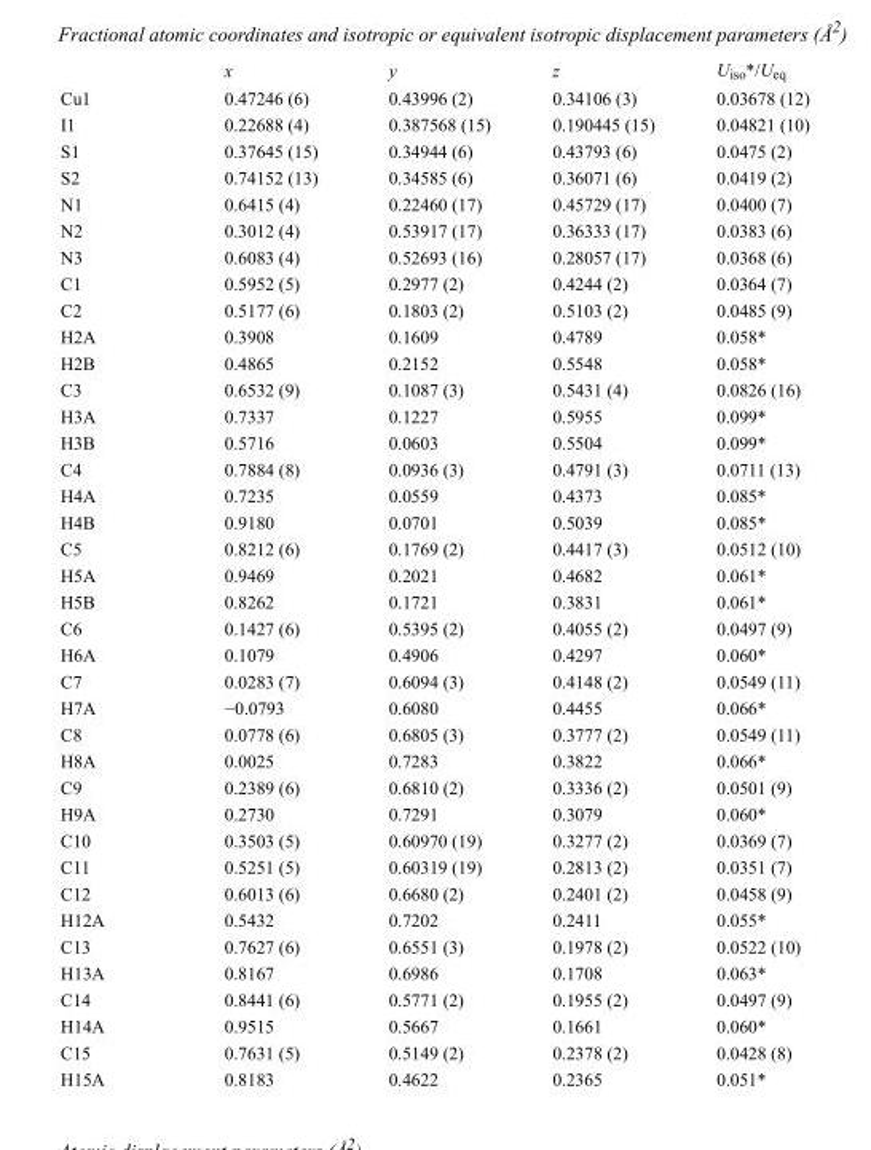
<table><thead><tr><td></td><td>x</td><td>y</td><td>z</td><td>U<sub>iso</sub>*/U<sub>eq</sub></td></tr></thead><tbody><tr><td>Cu1</td><td>0.47246 (6)</td><td>0.43996 (2)</td><td>0.34106 (3)</td><td>0.03678 (12)</td></tr><tr><td>I1</td><td>0.22688 (4)</td><td>0.387568 (15)</td><td>0.190445 (15)</td><td>0.04821 (10)</td></tr><tr><td>S1</td><td>0.37645 (15)</td><td>0.34944 (6)</td><td>0.43793 (6)</td><td>0.0475 (2)</td></tr><tr><td>S2</td><td>0.74152 (13)</td><td>0.34585 (6)</td><td>0.36071 (6)</td><td>0.0419 (2)</td></tr><tr><td>N1</td><td>0.6415 (4)</td><td>0.22460 (17)</td><td>0.45729 (17)</td><td>0.0400 (7)</td></tr><tr><td>N2</td><td>0.3012 (4)</td><td>0.53917 (17)</td><td>0.36333 (17)</td><td>0.0383 (6)</td></tr><tr><td>N3</td><td>0.6083 (4)</td><td>0.52693 (16)</td><td>0.28057 (17)</td><td>0.0368 (6)</td></tr><tr><td>C1</td><td>0.5952 (5)</td><td>0.2977 (2)</td><td>0.4244 (2)</td><td>0.0364 (7)</td></tr><tr><td>C2</td><td>0.5177 (6)</td><td>0.1803 (2)</td><td>0.5103 (2)</td><td>0.0485 (9)</td></tr><tr><td>H2A</td><td>0.3908</td><td>0.1609</td><td>0.4789</td><td>0.058*</td></tr><tr><td>H2B</td><td>0.4865</td><td>0.2152</td><td>0.5548</td><td>0.058*</td></tr><tr><td>C3</td><td>0.6532 (9)</td><td>0.1087 (3)</td><td>0.5431 (4)</td><td>0.0826 (16)</td></tr><tr><td>H3A</td><td>0.7337</td><td>0.1227</td><td>0.5955</td><td>0.099*</td></tr><tr><td>H3B</td><td>0.5716</td><td>0.0603</td><td>0.5504</td><td>0.099*</td></tr><tr><td>C4</td><td>0.7884 (8)</td><td>0.0936 (3)</td><td>0.4791 (3)</td><td>0.0711 (13)</td></tr><tr><td>H4A</td><td>0.7235</td><td>0.0559</td><td>0.4373</td><td>0.085*</td></tr><tr><td>H4B</td><td>0.9180</td><td>0.0701</td><td>0.5039</td><td>0.085*</td></tr><tr><td>C5</td><td>0.8212 (6)</td><td>0.1769 (2)</td><td>0.4417 (3)</td><td>0.0512 (10)</td></tr><tr><td>H5A</td><td>0.9469</td><td>0.2021</td><td>0.4682</td><td>0.061*</td></tr><tr><td>H5B</td><td>0.8262</td><td>0.1721</td><td>0.3831</td><td>0.061*</td></tr><tr><td>C6</td><td>0.1427 (6)</td><td>0.5395 (2)</td><td>0.4055 (2)</td><td>0.0497 (9)</td></tr><tr><td>H6A</td><td>0.1079</td><td>0.4906</td><td>0.4297</td><td>0.060*</td></tr><tr><td>C7</td><td>0.0283 (7)</td><td>0.6094 (3)</td><td>0.4148 (2)</td><td>0.0549 (11)</td></tr><tr><td>H7A</td><td>−0.0793</td><td>0.6080</td><td>0.4455</td><td>0.066*</td></tr><tr><td>C8</td><td>0.0778 (6)</td><td>0.6805 (3)</td><td>0.3777 (2)</td><td>0.0549 (11)</td></tr><tr><td>H8A</td><td>0.0025</td><td>0.7283</td><td>0.3822</td><td>0.066*</td></tr><tr><td>C9</td><td>0.2389 (6)</td><td>0.6810 (2)</td><td>0.3336 (2)</td><td>0.0501 (9)</td></tr><tr><td>H9A</td><td>0.2730</td><td>0.7291</td><td>0.3079</td><td>0.060*</td></tr><tr><td>C10</td><td>0.3503 (5)</td><td>0.60970 (19)</td><td>0.3277 (2)</td><td>0.0369 (7)</td></tr><tr><td>C11</td><td>0.5251 (5)</td><td>0.60319 (19)</td><td>0.2813 (2)</td><td>0.0351 (7)</td></tr><tr><td>C12</td><td>0.6013 (6)</td><td>0.6680 (2)</td><td>0.2401 (2)</td><td>0.0458 (9)</td></tr><tr><td>H12A</td><td>0.5432</td><td>0.7202</td><td>0.2411</td><td>0.055*</td></tr><tr><td>C13</td><td>0.7627 (6)</td><td>0.6551 (3)</td><td>0.1978 (2)</td><td>0.0522 (10)</td></tr><tr><td>H13A</td><td>0.8167</td><td>0.6986</td><td>0.1708</td><td>0.063*</td></tr><tr><td>C14</td><td>0.8441 (6)</td><td>0.5771 (2)</td><td>0.1955 (2)</td><td>0.0497 (9)</td></tr><tr><td>H14A</td><td>0.9515</td><td>0.5667</td><td>0.1661</td><td>0.060*</td></tr><tr><td>C15</td><td>0.7631 (5)</td><td>0.5149 (2)</td><td>0.2378 (2)</td><td>0.0428 (8)</td></tr><tr><td>H15A</td><td>0.8183</td><td>0.4622</td><td>0.2365</td><td>0.051*</td></tr></tbody></table>